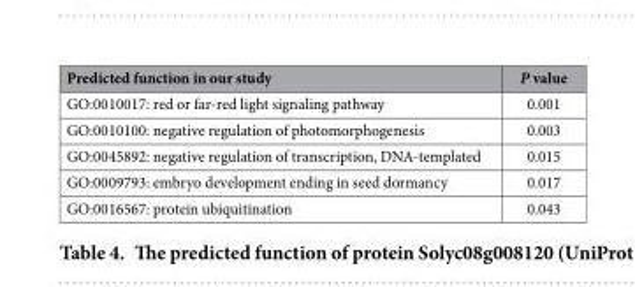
<table><thead><tr><td>Predicted function in our study</td><td>P value</td></tr></thead><tbody><tr><td>GO:0010017: red or far-red light signaling pathway</td><td>0.001</td></tr><tr><td>GO:0010100: negative regulation of photomorphogenesis</td><td>0.003</td></tr><tr><td>GO:0045892: negative regulation of transcription, DNA-templated</td><td>0.015</td></tr><tr><td>GO:0009793: embryo development ending in seed dormancy</td><td>0.017</td></tr><tr><td>GO:0016567: protein ubiquitination</td><td>0.043</td></tr></tbody></table>